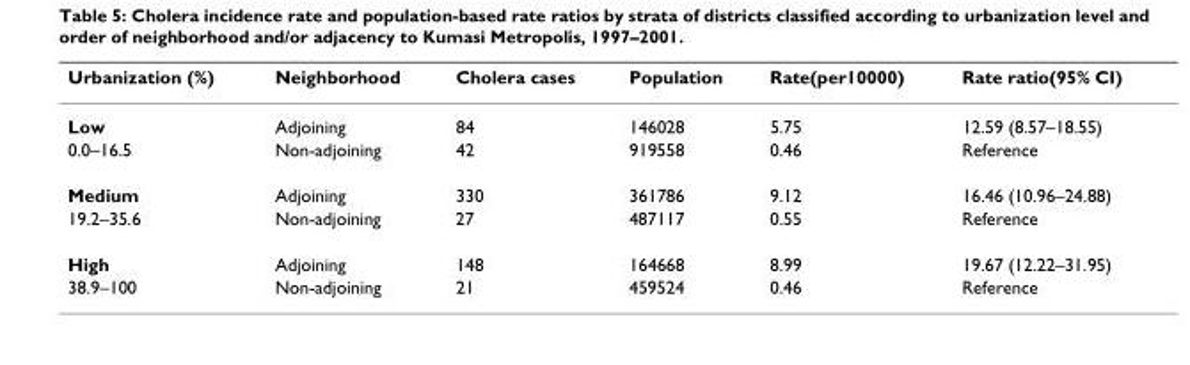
<table><thead><tr><td>Urbanization (%)</td><td>Neighborhood</td><td>Cholera cases</td><td>Population</td><td>Rate(per10000)</td><td>Rate ratio(95% CI)</td></tr></thead><tbody><tr><td>Low</td><td>Adjoining</td><td>84</td><td>146028</td><td>5.75</td><td>12.59 (8.57–18.55)</td></tr><tr><td>0.0–16.5</td><td>Non-adjoining</td><td>42</td><td>919558</td><td>0.46</td><td>Reference</td></tr><tr><td>Medium</td><td>Adjoining</td><td>330</td><td>361786</td><td>9.12</td><td>16.46 (10.96–24.88)</td></tr><tr><td>19.2–35.6</td><td>Non-adjoining</td><td>27</td><td>487117</td><td>0.55</td><td>Reference</td></tr><tr><td>High</td><td>Adjoining</td><td>148</td><td>164668</td><td>8.99</td><td>19.67 (12.22–31.95)</td></tr><tr><td>38.9–100</td><td>Non-adjoining</td><td>21</td><td>459524</td><td>0.46</td><td>Reference</td></tr></tbody></table>